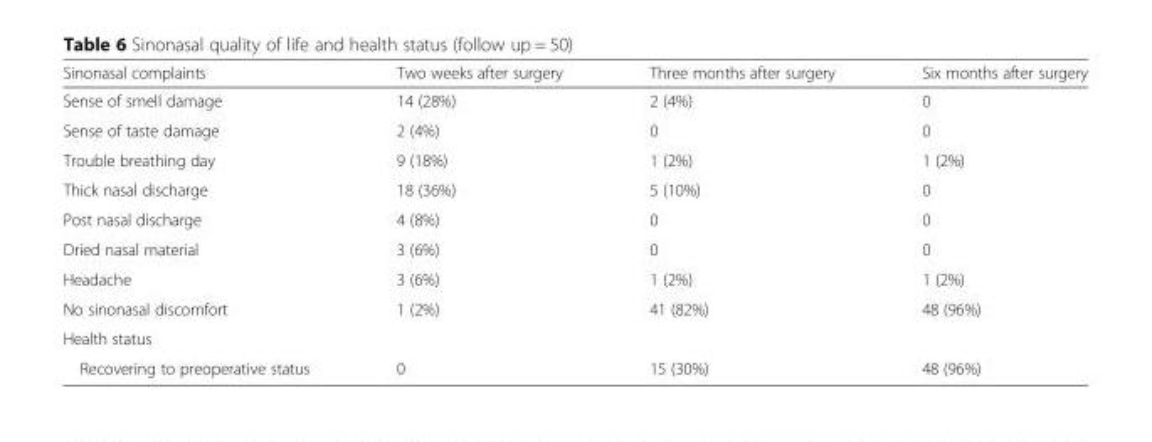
<table><thead><tr><td>Sinonasal complaints</td><td>Two weeks after surgery</td><td>Three months after surgery</td><td>Six months after surgery</td></tr></thead><tbody><tr><td>Sense of smell damage</td><td>14 (28%)</td><td>2 (4%)</td><td>0</td></tr><tr><td>Sense of taste damage</td><td>2 (4%)</td><td>0</td><td>0</td></tr><tr><td>Trouble breathing day</td><td>9 (18%)</td><td>1 (2%)</td><td>1 (2%)</td></tr><tr><td>Thick nasal discharge</td><td>18 (36%)</td><td>5 (10%)</td><td>0</td></tr><tr><td>Post nasal discharge</td><td>4 (8%)</td><td>0</td><td>0</td></tr><tr><td>Dried nasal material</td><td>3 (6%)</td><td>0</td><td>0</td></tr><tr><td>Headache</td><td>3 (6%)</td><td>1 (2%)</td><td>1 (2%)</td></tr><tr><td>No sinonasal discomfort</td><td>1 (2%)</td><td>41 (82%)</td><td>48 (96%)</td></tr><tr><td colspan="4">Health status</td></tr><tr><td>Recovering to preoperative status</td><td>0</td><td>15 (30%)</td><td>48 (96%)</td></tr></tbody></table>